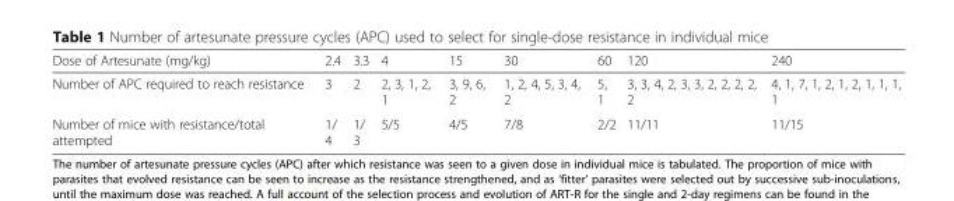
<table><thead><tr><td>Dose of Artesunate (mg/kg)</td><td>2.4</td><td>3.3</td><td>4</td><td>15</td><td>30</td><td>60</td><td>120</td><td>240</td></tr></thead><tbody><tr><td>Number of APC required to reach resistance</td><td>3</td><td>2</td><td>2, 3, 1, 2, 1</td><td>3, 9, 6, 2</td><td>1, 2, 4, 5, 3, 4, 2</td><td>5, 1</td><td>3, 3, 4, 2, 3, 3, 2, 2, 2, 2, 2</td><td>4, 1, 7, 1, 2, 1, 2, 1, 1, 1, 1</td></tr><tr><td>Number of mice with resistance/total attempted</td><td>1/ 4</td><td>1/ 3</td><td>5/5</td><td>4/5</td><td>7/8</td><td>2/2</td><td>11/11</td><td>11/15</td></tr></tbody></table>